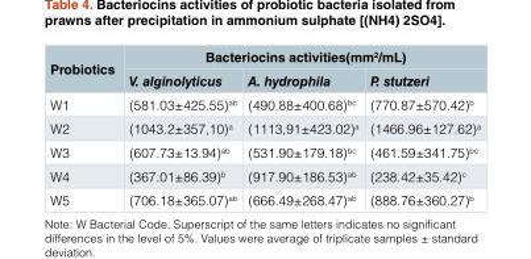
<table><thead><tr><td rowspan="2">Probiotics</td><td colspan="3">Bacteriocins activities(mm<sup>2</sup>/mL)</td></tr><tr><td>V. alginolyticus</td><td>A. hydrophila</td><td>P. stutzeri</td></tr></thead><tbody><tr><td>W1</td><td>(581.03±425.55)<sup>ab</sup></td><td>(490.88±400.68)<sup>bc</sup></td><td>(770.87±570.42)<sup>b</sup></td></tr><tr><td>W2</td><td>(1043.2±357,10)<sup>a</sup></td><td>(1113,91±423.02)<sup>a</sup></td><td>(1466.96±127.62)<sup>a</sup></td></tr><tr><td>W3</td><td>(607.73±13.94)<sup>ab</sup></td><td>(531.90±179.18)<sup>bc</sup></td><td>(461.59±341.75)<sup>bc</sup></td></tr><tr><td>W4</td><td>(367.01±86.39)<sup>b</sup></td><td>(917.90±186.53)<sup>ab</sup></td><td>(238.42±35.42)<sup>c</sup></td></tr><tr><td>W5</td><td>(706.18±365.07)<sup>ab</sup></td><td>(666.49±268.47)<sup>ab</sup></td><td>(888.76±360.27)<sup>b</sup></td></tr></tbody></table>